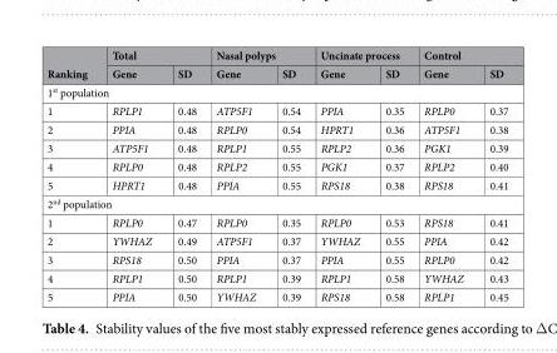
<table><thead><tr><td rowspan="2">Ranking</td><td colspan="2">Total</td><td colspan="2">Nasal polyps</td><td colspan="2">Uncinate process</td><td colspan="2">Control</td></tr><tr><td>Gene</td><td>SD</td><td>Gene</td><td>SD</td><td>Gene</td><td>SD</td><td>Gene</td><td>SD</td></tr></thead><tbody><tr><td colspan="9">1<sup>st</sup> population</td></tr><tr><td>1</td><td>RPLP1</td><td>0.48</td><td>ATP5F1</td><td>0.54</td><td>PPIA</td><td>0.35</td><td>RPLP0</td><td>0.37</td></tr><tr><td>2</td><td>PPIA</td><td>0.48</td><td>RPLP0</td><td>0.54</td><td>HPRT1</td><td>0.36</td><td>ATP5F1</td><td>0.38</td></tr><tr><td>3</td><td>ATP5F1</td><td>0.48</td><td>RPLP1</td><td>0.55</td><td>RPLP2</td><td>0.36</td><td>PGK1</td><td>0.39</td></tr><tr><td>4</td><td>RPLP0</td><td>0.48</td><td>RPLP2</td><td>0.55</td><td>PGK1</td><td>0.37</td><td>RPLP2</td><td>0.40</td></tr><tr><td>5</td><td>HPRT1</td><td>0.48</td><td>PPIA</td><td>0.55</td><td>RPS18</td><td>0.38</td><td>RPS18</td><td>0.41</td></tr><tr><td colspan="9">2<sup>nd</sup> population</td></tr><tr><td>1</td><td>RPLP0</td><td>0.47</td><td>RPLP0</td><td>0.35</td><td>RPLP0</td><td>0.53</td><td>RPS18</td><td>0.41</td></tr><tr><td>2</td><td>YWHAZ</td><td>0.49</td><td>ATP5F1</td><td>0.37</td><td>YWHAZ</td><td>0.55</td><td>PPIA</td><td>0.42</td></tr><tr><td>3</td><td>RPS18</td><td>0.50</td><td>PPIA</td><td>0.37</td><td>PPIA</td><td>0.55</td><td>RPLP0</td><td>0.42</td></tr><tr><td>4</td><td>RPLP1</td><td>0.50</td><td>RPLP1</td><td>0.39</td><td>RPLP1</td><td>0.58</td><td>YWHAZ</td><td>0.43</td></tr><tr><td>5</td><td>PPIA</td><td>0.50</td><td>YWHAZ</td><td>0.39</td><td>RPS18</td><td>0.58</td><td>RPLP1</td><td>0.45</td></tr></tbody></table>